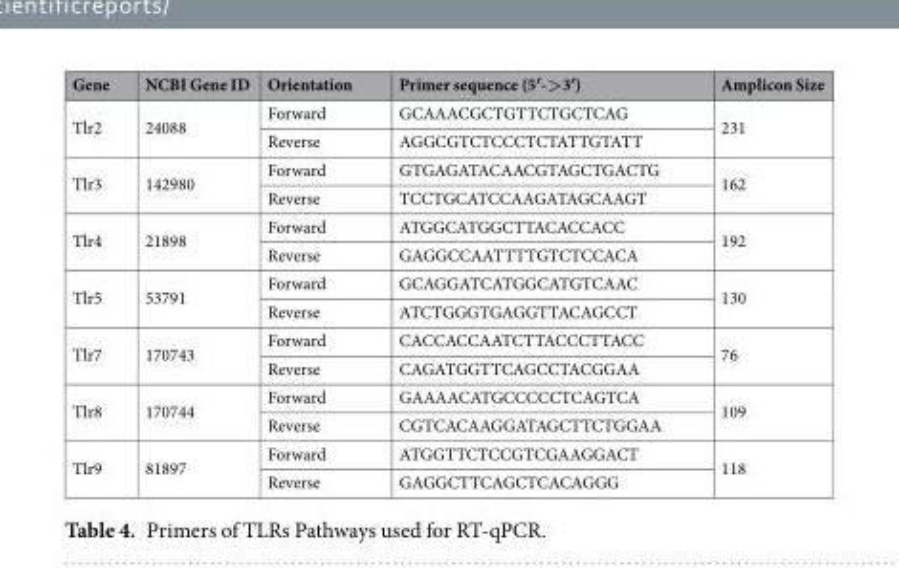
<table><thead><tr><td>Gene</td><td>NCBI Gene ID</td><td>Orientation</td><td>Primer sequence (5′-&gt;3′)</td><td>Amplicon Size</td></tr></thead><tbody><tr><td rowspan="2">Tlr2</td><td rowspan="2">24088</td><td>Forward</td><td>GCAAACGCTGTTCTGCTCAG</td><td rowspan="2">231</td></tr><tr><td>Reverse</td><td>AGGCGTCTCCCTCTATTGTATT</td></tr><tr><td rowspan="2">Tlr3</td><td rowspan="2">142980</td><td>Forward</td><td>GTGAGATACAACGTAGCTGACTG</td><td rowspan="2">162</td></tr><tr><td>Reverse</td><td>TCCTGCATCCAAGATAGCAAGT</td></tr><tr><td rowspan="2">Tlr4</td><td rowspan="2">21898</td><td>Forward</td><td>ATGGCATGGCTTACACCACC</td><td rowspan="2">192</td></tr><tr><td>Reverse</td><td>GAGGCCAATTTTGTCTCCACA</td></tr><tr><td rowspan="2">Tlr5</td><td rowspan="2">53791</td><td>Forward</td><td>GCAGGATCATGGCATGTCAAC</td><td rowspan="2">130</td></tr><tr><td>Reverse</td><td>ATCTGGGTGAGGTTACAGCCT</td></tr><tr><td rowspan="2">Tlr7</td><td rowspan="2">170743</td><td>Forward</td><td>CACCACCAATCTTACCCTTACC</td><td rowspan="2">76</td></tr><tr><td>Reverse</td><td>CAGATGGTTCAGCCTACGGAA</td></tr><tr><td rowspan="2">Tlr8</td><td rowspan="2">170744</td><td>Forward</td><td>GAAAACATGCCCCCTCAGTCA</td><td rowspan="2">109</td></tr><tr><td>Reverse</td><td>CGTCACAAGGATAGCTTCTGGAA</td></tr><tr><td rowspan="2">Tlr9</td><td rowspan="2">81897</td><td>Forward</td><td>ATGGTTCTCCGTCGAAGGACT</td><td rowspan="2">118</td></tr><tr><td>Reverse</td><td>GAGGCTTCAGCTCACAGGG</td></tr></tbody></table>